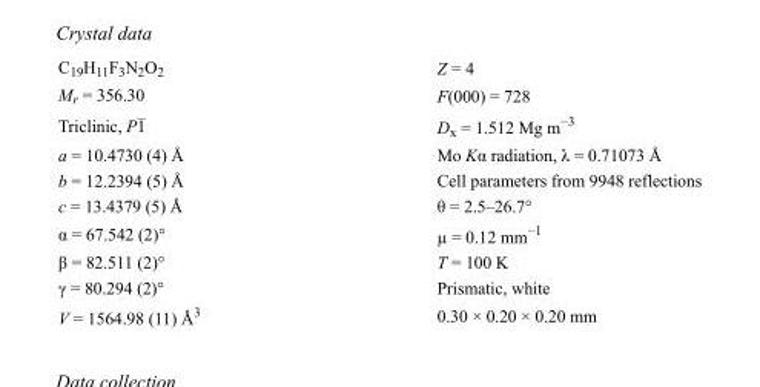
<table><tbody><tr><td>C<sub>19</sub>H<sub>11</sub>F<sub>3</sub>N<sub>2</sub>O<sub>2</sub></td><td>Z = 4</td></tr><tr><td>M<sub>r</sub> = 356.30</td><td>F(000) = 728</td></tr><tr><td>Triclinic, P1</td><td>D<sub>x</sub> = 1.512 Mg m<sup>−3</sup></td></tr><tr><td>a = 10.4730 (4) Å</td><td>Mo Kα radiation, λ = 0.71073 Å</td></tr><tr><td>b = 12.2394 (5) Å</td><td>Cell parameters from 9948 reflections</td></tr><tr><td>c = 13.4379 (5) Å</td><td>θ = 2.5–26.7°</td></tr><tr><td>α = 67.542 (2)°</td><td>µ = 0.12 mm<sup>−1</sup></td></tr><tr><td>β = 82.511 (2)°</td><td>T = 100 K</td></tr><tr><td>γ = 80.294 (2)°</td><td>Prismatic, white</td></tr><tr><td>V = 1564.98 (11) Å<sup>3</sup></td><td>0.30 × 0.20 × 0.20 mm</td></tr></tbody></table>